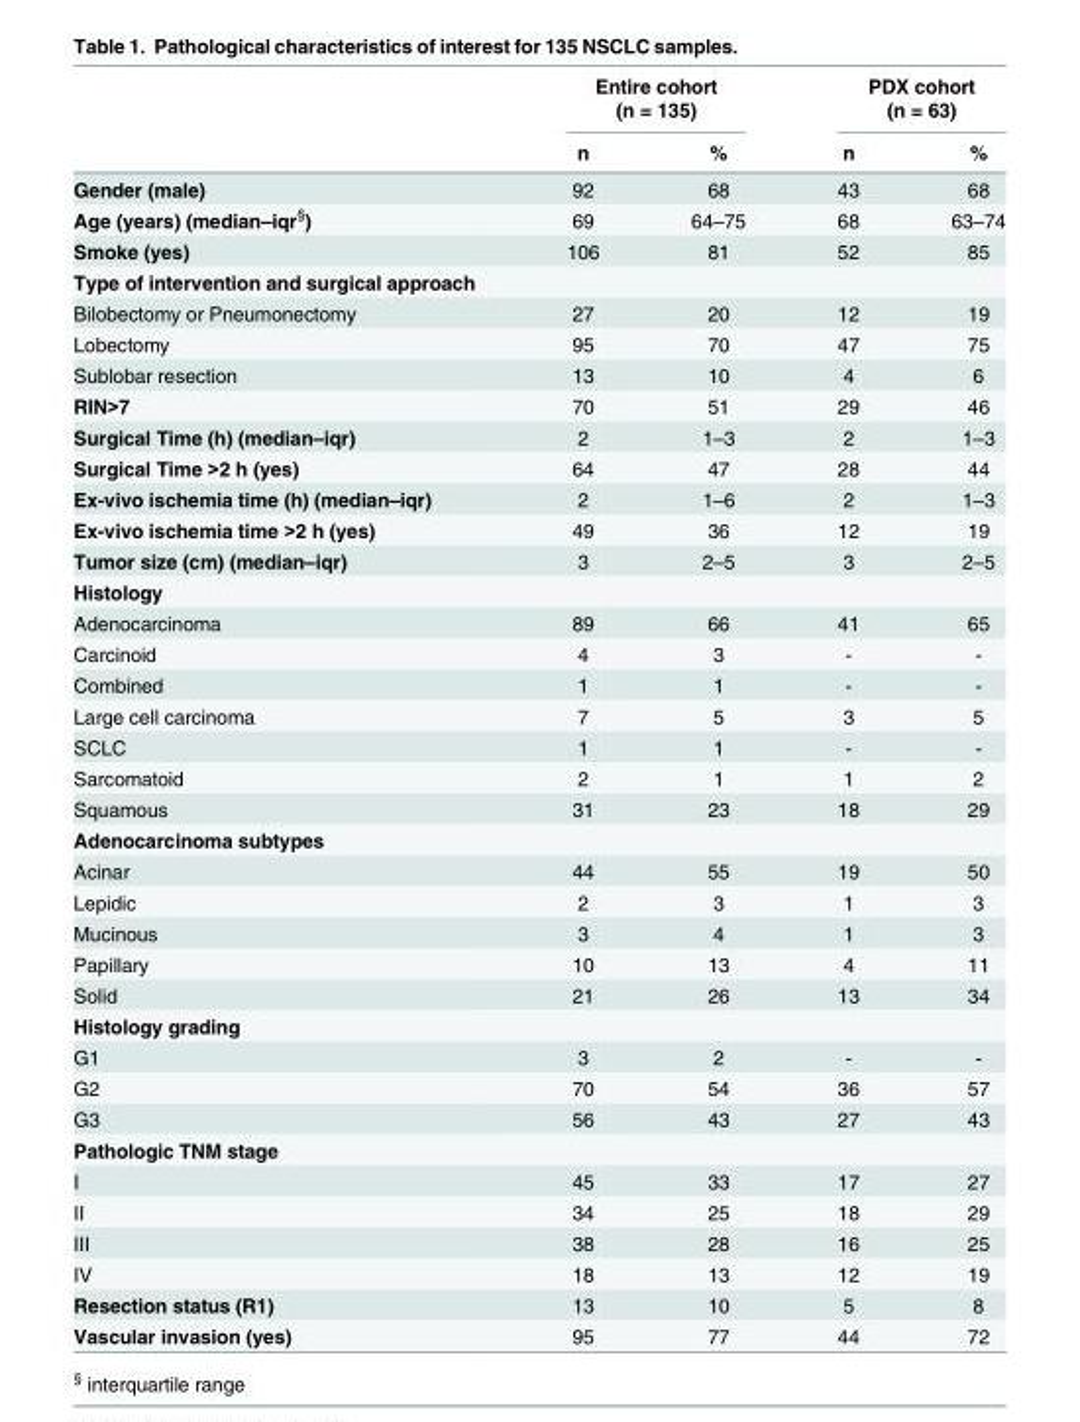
<table><thead><tr><td rowspan="2"></td><td colspan="2">Entire cohort (n = 135)</td><td colspan="2">PDX cohort (n = 63)</td></tr><tr><td>n</td><td>%</td><td>n</td><td>%</td></tr></thead><tbody><tr><td>Gender (male)</td><td>92</td><td>68</td><td>43</td><td>68</td></tr><tr><td>Age (years) (median–iqr<sup>§</sup>)</td><td>69</td><td>64–75</td><td>68</td><td>63–74</td></tr><tr><td>Smoke (yes)</td><td>106</td><td>81</td><td>52</td><td>85</td></tr><tr><td colspan="5">Type of intervention and surgical approach</td></tr><tr><td>Bilobectomy or Pneumonectomy</td><td>27</td><td>20</td><td>12</td><td>19</td></tr><tr><td>Lobectomy</td><td>95</td><td>70</td><td>47</td><td>75</td></tr><tr><td>Sublobar resection</td><td>13</td><td>10</td><td>4</td><td>6</td></tr><tr><td>RIN&gt;7</td><td>70</td><td>51</td><td>29</td><td>46</td></tr><tr><td>Surgical Time (h) (median–iqr)</td><td>2</td><td>1–3</td><td>2</td><td>1–3</td></tr><tr><td>Surgical Time &gt;2 h (yes)</td><td>64</td><td>47</td><td>28</td><td>44</td></tr><tr><td>Ex-vivo ischemia time (h) (median–iqr)</td><td>2</td><td>1–6</td><td>2</td><td>1–3</td></tr><tr><td>Ex-vivo ischemia time &gt;2 h (yes)</td><td>49</td><td>36</td><td>12</td><td>19</td></tr><tr><td>Tumor size (cm) (median–iqr)</td><td>3</td><td>2–5</td><td>3</td><td>2–5</td></tr><tr><td colspan="5">Histology</td></tr><tr><td>Adenocarcinoma</td><td>89</td><td>66</td><td>41</td><td>65</td></tr><tr><td>Carcinoid</td><td>4</td><td>3</td><td>-</td><td>-</td></tr><tr><td>Combined</td><td>1</td><td>1</td><td>-</td><td>-</td></tr><tr><td>Large cell carcinoma</td><td>7</td><td>5</td><td>3</td><td>5</td></tr><tr><td>SCLC</td><td>1</td><td>1</td><td>-</td><td>-</td></tr><tr><td>Sarcomatoid</td><td>2</td><td>1</td><td>1</td><td>2</td></tr><tr><td>Squamous</td><td>31</td><td>23</td><td>18</td><td>29</td></tr><tr><td colspan="5">Adenocarcinoma subtypes</td></tr><tr><td>Acinar</td><td>44</td><td>55</td><td>19</td><td>50</td></tr><tr><td>Lepidic</td><td>2</td><td>3</td><td>1</td><td>3</td></tr><tr><td>Mucinous</td><td>3</td><td>4</td><td>1</td><td>3</td></tr><tr><td>Papillary</td><td>10</td><td>13</td><td>4</td><td>11</td></tr><tr><td>Solid</td><td>21</td><td>26</td><td>13</td><td>34</td></tr><tr><td colspan="5">Histology grading</td></tr><tr><td>G1</td><td>3</td><td>2</td><td>-</td><td>-</td></tr><tr><td>G2</td><td>70</td><td>54</td><td>36</td><td>57</td></tr><tr><td>G3</td><td>56</td><td>43</td><td>27</td><td>43</td></tr><tr><td colspan="5">Pathologic TNM stage</td></tr><tr><td>I</td><td>45</td><td>33</td><td>17</td><td>27</td></tr><tr><td>II</td><td>34</td><td>25</td><td>18</td><td>29</td></tr><tr><td>III</td><td>38</td><td>28</td><td>16</td><td>25</td></tr><tr><td>IV</td><td>18</td><td>13</td><td>12</td><td>19</td></tr><tr><td>Resection status (R1)</td><td>13</td><td>10</td><td>5</td><td>8</td></tr><tr><td>Vascular invasion (yes)</td><td>95</td><td>77</td><td>44</td><td>72</td></tr></tbody></table>